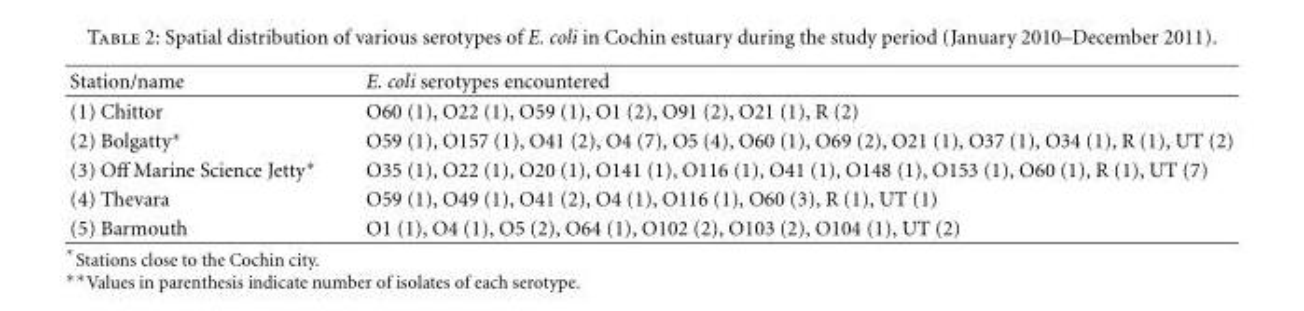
<table><thead><tr><td>Station/name</td><td>E. coli serotypes encountered</td></tr></thead><tbody><tr><td>(1) Chittor</td><td>O60 (1), O22 (1), O59 (1), O1 (2), O91 (2), O21 (1), R (2)</td></tr><tr><td>(2) Bolgatty∗</td><td>O59 (1), O157 (1), O41 (2), O4 (7), O5 (4), O60 (1), O69 (2), O21 (1), O37 (1), O34 (1), R (1), UT (2)</td></tr><tr><td>(3) Off Marine Science Jetty∗</td><td>O35 (1), O22 (1), O20 (1), O141 (1), O116 (1), O41 (1), O148 (1), O153 (1), O60 (1), R (1), UT (7)</td></tr><tr><td>(4) Thevara</td><td>O59 (1), O49 (1), O41 (2), O4 (1), O116 (1), O60 (3), R (1), UT (1)</td></tr><tr><td>(5) Barmouth</td><td>O1 (1), O4 (1), O5 (2), O64 (1), O102 (2), O103 (2), O104 (1), UT (2)</td></tr></tbody></table>